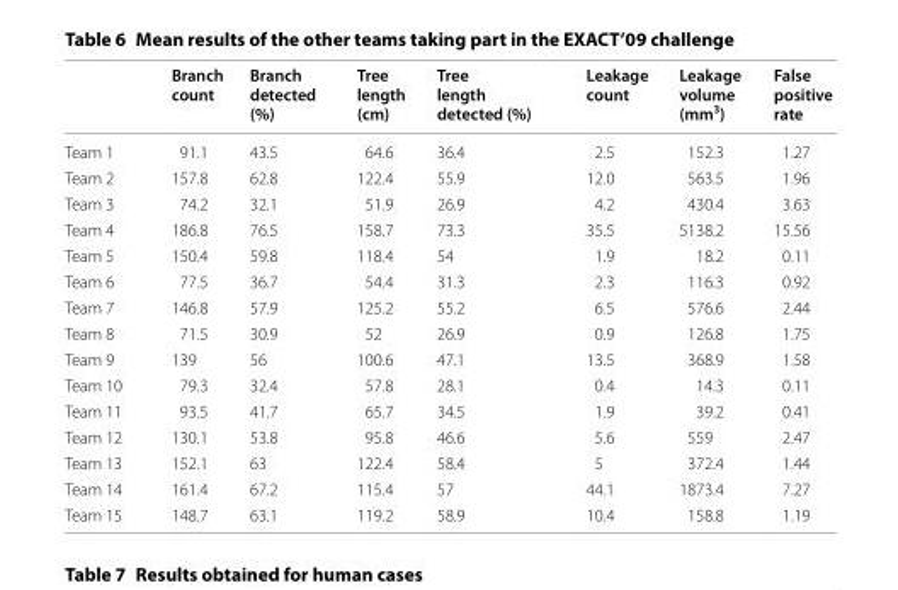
<table><thead><tr><td></td><td>Branch count</td><td>Branch detected (%)</td><td>Tree length (cm)</td><td>Tree length detected (%)</td><td>Leakage count</td><td>Leakage volume (mm<sup>3</sup>)</td><td>False positive rate</td></tr></thead><tbody><tr><td>Team 1</td><td>91.1</td><td>43.5</td><td>64.6</td><td>36.4</td><td>2.5</td><td>152.3</td><td>1.27</td></tr><tr><td>Team 2</td><td>157.8</td><td>62.8</td><td>122.4</td><td>55.9</td><td>12.0</td><td>563.5</td><td>1.96</td></tr><tr><td>Team 3</td><td>74.2</td><td>32.1</td><td>51.9</td><td>26.9</td><td>4.2</td><td>430.4</td><td>3.63</td></tr><tr><td>Team 4</td><td>186.8</td><td>76.5</td><td>158.7</td><td>73.3</td><td>35.5</td><td>5138.2</td><td>15.56</td></tr><tr><td>Team 5</td><td>150.4</td><td>59.8</td><td>118.4</td><td>54</td><td>1.9</td><td>18.2</td><td>0.11</td></tr><tr><td>Team 6</td><td>77.5</td><td>36.7</td><td>54.4</td><td>31.3</td><td>2.3</td><td>116.3</td><td>0.92</td></tr><tr><td>Team 7</td><td>146.8</td><td>57.9</td><td>125.2</td><td>55.2</td><td>6.5</td><td>576.6</td><td>2.44</td></tr><tr><td>Team 8</td><td>71.5</td><td>30.9</td><td>52</td><td>26.9</td><td>0.9</td><td>126.8</td><td>1.75</td></tr><tr><td>Team 9</td><td>139</td><td>56</td><td>100.6</td><td>47.1</td><td>13.5</td><td>368.9</td><td>1.58</td></tr><tr><td>Team 10</td><td>79.3</td><td>32.4</td><td>57.8</td><td>28.1</td><td>0.4</td><td>14.3</td><td>0.11</td></tr><tr><td>Team 11</td><td>93.5</td><td>41.7</td><td>65.7</td><td>34.5</td><td>1.9</td><td>39.2</td><td>0.41</td></tr><tr><td>Team 12</td><td>130.1</td><td>53.8</td><td>95.8</td><td>46.6</td><td>5.6</td><td>559</td><td>2.47</td></tr><tr><td>Team 13</td><td>152.1</td><td>63</td><td>122.4</td><td>58.4</td><td>5</td><td>372.4</td><td>1.44</td></tr><tr><td>Team 14</td><td>161.4</td><td>67.2</td><td>115.4</td><td>57</td><td>44.1</td><td>1873.4</td><td>7.27</td></tr><tr><td>Team 15</td><td>148.7</td><td>63.1</td><td>119.2</td><td>58.9</td><td>10.4</td><td>158.8</td><td>1.19</td></tr></tbody></table>